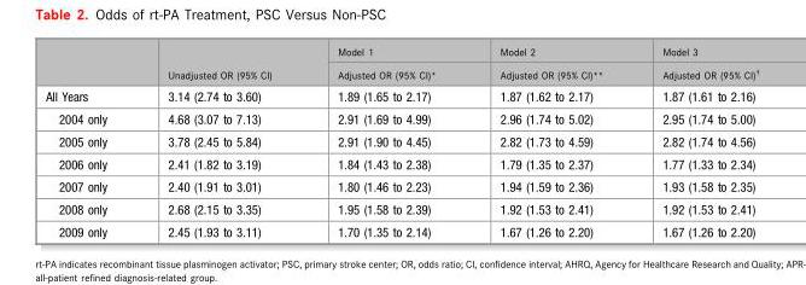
<table><thead><tr><td rowspan="2"></td><td rowspan="2">Unadjusted OR (95% CI)</td><td rowspan="2">Model 1 Adjusted OR (95% CI)*</td><td rowspan="2">Model 2 Adjusted OR (95% CI)**</td><td rowspan="2">Model 3 Adjusted OR (95% CI)†</td></tr><tr></tr></thead><tbody><tr><td>All Years</td><td>3.14 (2.74 to 3.60)</td><td>1.89 (1.65 to 2.17)</td><td>1.87 (1.62 to 2.17)</td><td>1.87 (1.61 to 2.16)</td></tr><tr><td>2004 only</td><td>4.68 (3.07 to 7.13)</td><td>2.91 (1.69 to 4.99)</td><td>2.96 (1.74 to 5.02)</td><td>2.95 (1.74 to 5.00)</td></tr><tr><td>2005 only</td><td>3.78 (2.45 to 5.84)</td><td>2.91 (1.90 to 4.45)</td><td>2.82 (1.73 to 4.59)</td><td>2.82 (1.74 to 4.56)</td></tr><tr><td>2006 only</td><td>2.41 (1.82 to 3.19)</td><td>1.84 (1.43 to 2.38)</td><td>1.79 (1.35 to 2.37)</td><td>1.77 (1.33 to 2.34)</td></tr><tr><td>2007 only</td><td>2.40 (1.91 to 3.01)</td><td>1.80 (1.46 to 2.23)</td><td>1.94 (1.59 to 2.36)</td><td>1.93 (1.58 to 2.35)</td></tr><tr><td>2008 only</td><td>2.68 (2.15 to 3.35)</td><td>1.95 (1.58 to 2.39)</td><td>1.92 (1.53 to 2.41)</td><td>1.92 (1.53 to 2.41)</td></tr><tr><td>2009 only</td><td>2.45 (1.93 to 3.11)</td><td>1.70 (1.35 to 2.14)</td><td>1.67 (1.26 to 2.20)</td><td>1.67 (1.26 to 2.20)</td></tr></tbody></table>